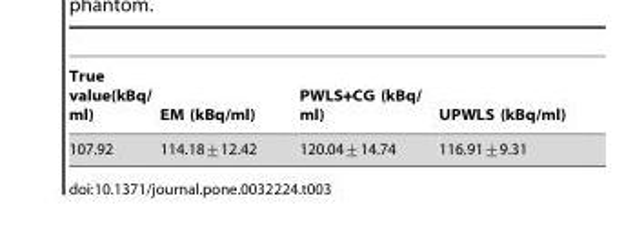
<table><thead><tr><td>True value(kBq/ ml)</td><td>EM (kBq/ml)</td><td>PWLS+CG (kBq/ ml)</td><td>UPWLS (kBq/ml)</td></tr></thead><tbody><tr><td>107.92</td><td>114.18+12.42</td><td>120.04+14.74</td><td>116.91+9.31</td></tr></tbody></table>